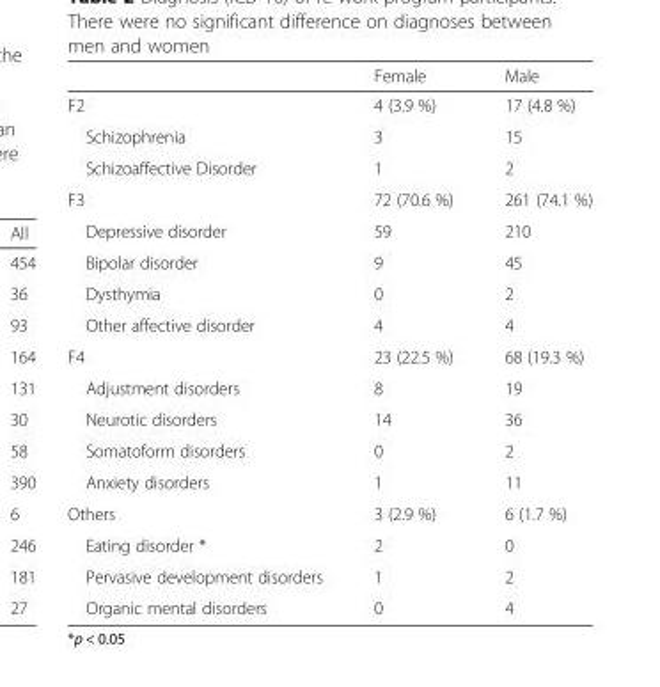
<table><thead><tr><td></td><td>Female</td><td>Male</td></tr></thead><tbody><tr><td>F2</td><td>4 (3.9 %)</td><td>17 (4.8 %)</td></tr><tr><td>Schizophrenia</td><td>3</td><td>15</td></tr><tr><td>Schizoaffective Disorder</td><td>1</td><td>2</td></tr><tr><td>F3</td><td>72 (70.6 %)</td><td>261 (74.1 %)</td></tr><tr><td>Depressive disorder</td><td>59</td><td>210</td></tr><tr><td>Bipolar disorder</td><td>9</td><td>45</td></tr><tr><td>Dysthymia</td><td>0</td><td>2</td></tr><tr><td>Other affective disorder</td><td>4</td><td>4</td></tr><tr><td>F4</td><td>23 (22.5 %)</td><td>68 (19.3 %)</td></tr><tr><td>Adjustment disorders</td><td>8</td><td>19</td></tr><tr><td>Neurotic disorders</td><td>14</td><td>36</td></tr><tr><td>Somatoform disorders</td><td>0</td><td>2</td></tr><tr><td>Anxiety disorders</td><td>1</td><td>11</td></tr><tr><td>Others</td><td>3 (2.9 %)</td><td>6 (1.7 %)</td></tr><tr><td>Eating disorder *</td><td>2</td><td>0</td></tr><tr><td>Pervasive development disorders</td><td>1</td><td>2</td></tr><tr><td>Organic mental disorders</td><td>0</td><td>4</td></tr></tbody></table>